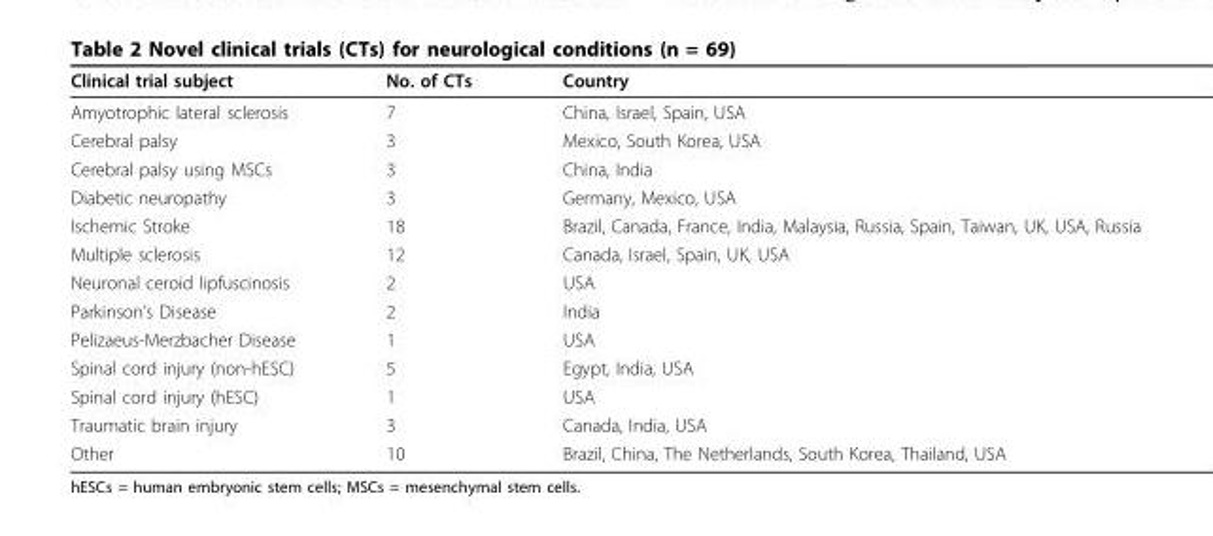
<table><thead><tr><td>Clinical trial subject</td><td>No. of CTs</td><td>Country</td></tr></thead><tbody><tr><td>Amyotrophic lateral sclerosis</td><td>7</td><td>China, Israel, Spain, USA</td></tr><tr><td>Cerebral palsy</td><td>3</td><td>Mexico, South Korea, USA</td></tr><tr><td>Cerebral palsy using MSCs</td><td>3</td><td>China, India</td></tr><tr><td>Diabetic neuropathy</td><td>3</td><td>Germany, Mexico, USA</td></tr><tr><td>Ischemic Stroke</td><td>18</td><td>Brazil, Canada, France, India, Malaysia, Russia, Spain, Taiwan, UK, USA, Russia</td></tr><tr><td>Multiple sclerosis</td><td>12</td><td>Canada, Israel, Spain, UK, USA</td></tr><tr><td>Neuronal ceroid lipfuscinosis</td><td>2</td><td>USA</td></tr><tr><td>Parkinson’s Disease</td><td>2</td><td>India</td></tr><tr><td>Pelizaeus-Merzbacher Disease</td><td>1</td><td>USA</td></tr><tr><td>Spinal cord injury (non-hESC)</td><td>5</td><td>Egypt, India, USA</td></tr><tr><td>Spinal cord injury (hESC)</td><td>1</td><td>USA</td></tr><tr><td>Traumatic brain injury</td><td>3</td><td>Canada, India, USA</td></tr><tr><td>Other</td><td>10</td><td>Brazil, China, The Netherlands, South Korea, Thailand, USA</td></tr></tbody></table>